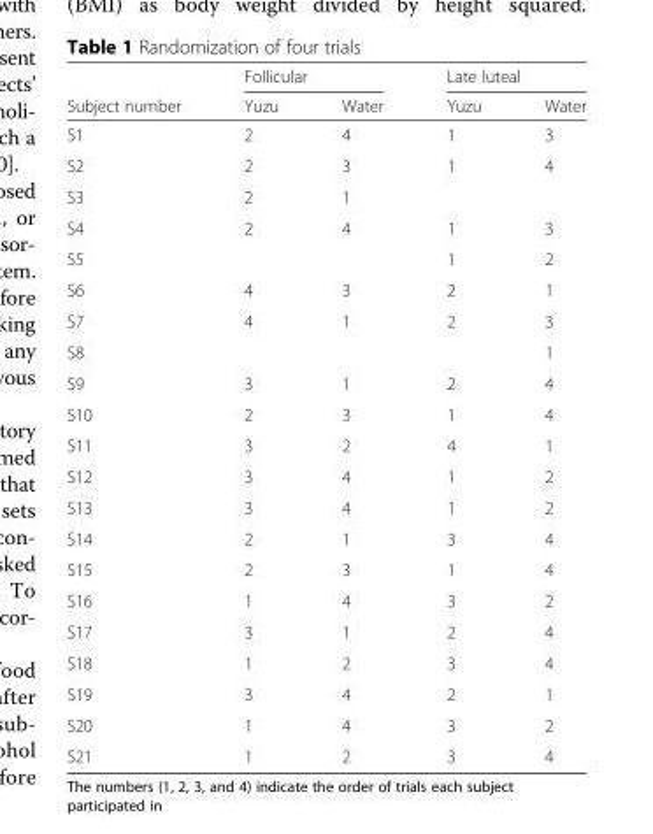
<table><thead><tr><td rowspan="2">Subject number</td><td colspan="2">Follicular</td><td colspan="2">Late luteal</td></tr><tr><td>Yuzu</td><td>Water</td><td>Yuzu</td><td>Water</td></tr></thead><tbody><tr><td>S1</td><td>2</td><td>4</td><td>1</td><td>3</td></tr><tr><td>S2</td><td>2</td><td>3</td><td>1</td><td>4</td></tr><tr><td>S3</td><td>2</td><td>1</td><td></td><td></td></tr><tr><td>S4</td><td>2</td><td>4</td><td>1</td><td>3</td></tr><tr><td>S5</td><td></td><td></td><td>1</td><td>2</td></tr><tr><td>S6</td><td>4</td><td>3</td><td>2</td><td>1</td></tr><tr><td>S7</td><td>4</td><td>1</td><td>2</td><td>3</td></tr><tr><td>S8</td><td></td><td></td><td></td><td>1</td></tr><tr><td>S9</td><td>3</td><td>1</td><td>2</td><td>4</td></tr><tr><td>S10</td><td>2</td><td>3</td><td>1</td><td>4</td></tr><tr><td>S11</td><td>3</td><td>2</td><td>4</td><td>1</td></tr><tr><td>S12</td><td>3</td><td>4</td><td>1</td><td>2</td></tr><tr><td>S13</td><td>3</td><td>4</td><td>1</td><td>2</td></tr><tr><td>S14</td><td>2</td><td>1</td><td>3</td><td>4</td></tr><tr><td>S15</td><td>2</td><td>3</td><td>1</td><td>4</td></tr><tr><td>S16</td><td>1</td><td>4</td><td>3</td><td>2</td></tr><tr><td>S17</td><td>3</td><td>1</td><td>2</td><td>4</td></tr><tr><td>S18</td><td>1</td><td>2</td><td>3</td><td>4</td></tr><tr><td>S19</td><td>3</td><td>4</td><td>2</td><td>1</td></tr><tr><td>S20</td><td>1</td><td>4</td><td>3</td><td>2</td></tr><tr><td>S21</td><td>1</td><td>2</td><td>3</td><td>4</td></tr></tbody></table>